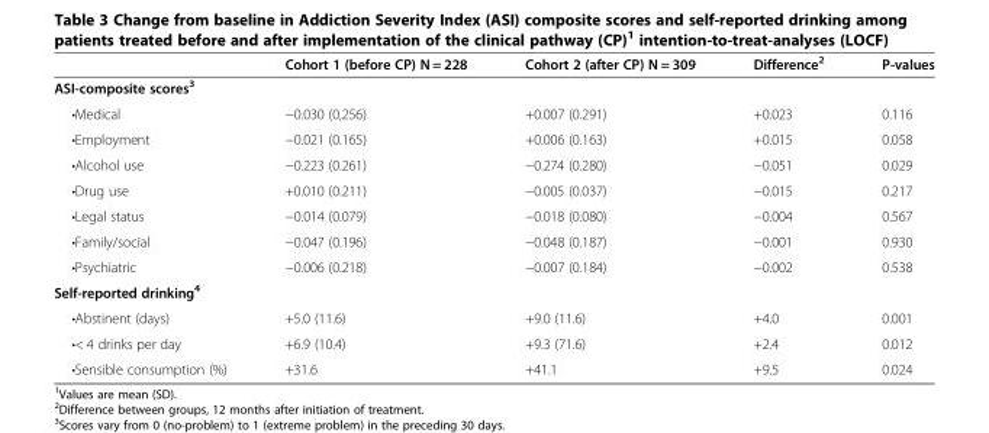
<table><thead><tr><td></td><td>Cohort 1 (before CP) N = 228</td><td>Cohort 2 (after CP) N = 309</td><td>Difference<sup>2</sup></td><td>P-values</td></tr></thead><tbody><tr><td colspan="5">ASI-composite scores<sup>3</sup></td></tr><tr><td>•Medical</td><td>−0.030 (0,256)</td><td>+0.007 (0.291)</td><td>+0.023</td><td>0.116</td></tr><tr><td>•Employment</td><td>−0.021 (0.165)</td><td>+0.006 (0.163)</td><td>+0.015</td><td>0.058</td></tr><tr><td>•Alcohol use</td><td>−0.223 (0.261)</td><td>−0.274 (0.280)</td><td>−0.051</td><td>0.029</td></tr><tr><td>•Drug use</td><td>+0.010 (0.211)</td><td>−0.005 (0.037)</td><td>−0.015</td><td>0.217</td></tr><tr><td>•Legal status</td><td>−0.014 (0.079)</td><td>−0.018 (0.080)</td><td>−0.004</td><td>0.567</td></tr><tr><td>•Family/social</td><td>−0.047 (0.196)</td><td>−0.048 (0.187)</td><td>−0.001</td><td>0.930</td></tr><tr><td>•Psychiatric</td><td>−0.006 (0.218)</td><td>−0.007 (0.184)</td><td>−0.002</td><td>0.538</td></tr><tr><td colspan="5">Self-reported drinking<sup>4</sup></td></tr><tr><td>•Abstinent (days)</td><td>+5.0 (11.6)</td><td>+9.0 (11.6)</td><td>+4.0</td><td>0.001</td></tr><tr><td>•&lt; 4 drinks per day</td><td>+6.9 (10.4)</td><td>+9.3 (71.6)</td><td>+2.4</td><td>0.012</td></tr><tr><td>•Sensible consumption (%)</td><td>+31.6</td><td>+41.1</td><td>+9.5</td><td>0.024</td></tr></tbody></table>